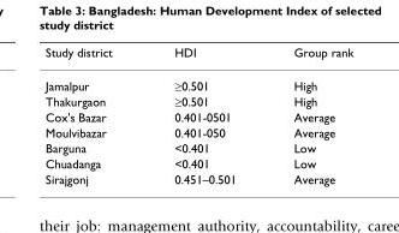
<table><thead><tr><td>Study district</td><td>HDI</td><td>Group rank</td></tr></thead><tbody><tr><td>Jamalpur</td><td>≥0.501</td><td>High</td></tr><tr><td>Thakurgaon</td><td>≥0.501</td><td>High</td></tr><tr><td>Cox&#x27;s Bazar</td><td>0.401-0501</td><td>Average</td></tr><tr><td>Moulvibazar</td><td>0.401-050</td><td>Average</td></tr><tr><td>Barguna</td><td>&lt;0.401</td><td>Low</td></tr><tr><td>Chuadanga</td><td>&lt;0.401</td><td>Low</td></tr><tr><td>Sirajgonj</td><td>0.451–0.501</td><td>Average</td></tr></tbody></table>